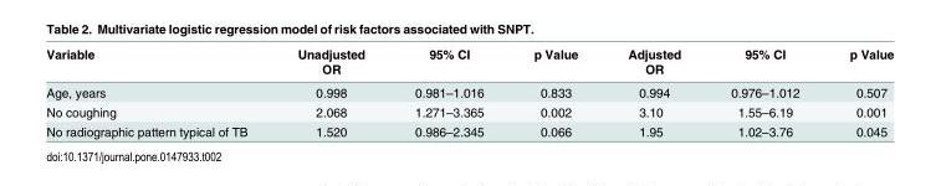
<table><thead><tr><td rowspan="2">Variable</td><td rowspan="2">Unadjusted OR</td><td rowspan="2">95% CI</td><td rowspan="2">p Value</td><td rowspan="2">Adjusted OR</td><td rowspan="2">95% CI</td><td rowspan="2">p Value</td></tr><tr></tr></thead><tbody><tr><td>Age, years</td><td>0.998</td><td>0.981–1.016</td><td>0.833</td><td>0.994</td><td>0.976–1.012</td><td>0.507</td></tr><tr><td>No coughing</td><td>2.068</td><td>1.271–3.365</td><td>0.002</td><td>3.10</td><td>1.55–6.19</td><td>0.001</td></tr><tr><td>No radiographic pattern typical of TB</td><td>1.520</td><td>0.986–2.345</td><td>0.066</td><td>1.95</td><td>1.02–3.76</td><td>0.045</td></tr></tbody></table>